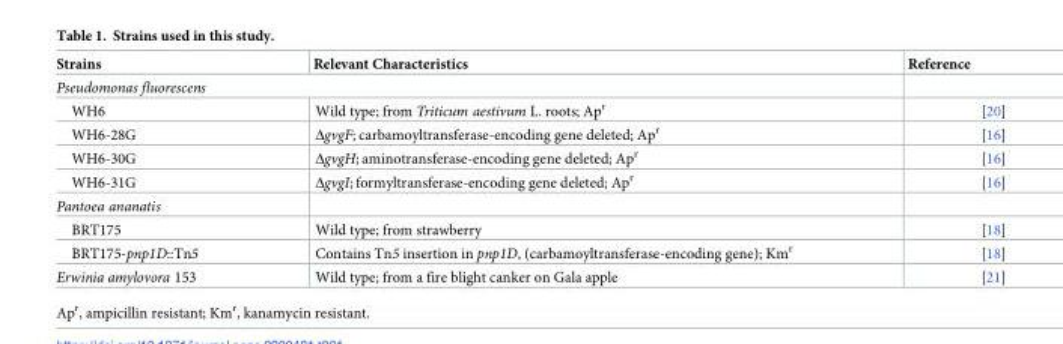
<table><thead><tr><td>Strains</td><td>Relevant Characteristics</td><td>Reference</td></tr></thead><tbody><tr><td colspan="3">Pseudomonas fluorescens</td></tr><tr><td>WH6</td><td>Wild type; from Triticum aestivum L. roots; Ap<sup>r</sup></td><td>[20]</td></tr><tr><td>WH6-28G</td><td>ΔgvgF; carbamoyltransferase-encoding gene deleted; Ap<sup>r</sup></td><td>[16]</td></tr><tr><td>WH6-30G</td><td>ΔgvgH; aminotransferase-encoding gene deleted; Ap<sup>r</sup></td><td>[16]</td></tr><tr><td>WH6-31G</td><td>ΔgvgI; formyltransferase-encoding gene deleted; Ap<sup>r</sup></td><td>[16]</td></tr><tr><td colspan="3">Pantoea ananatis</td></tr><tr><td>BRT175</td><td>Wild type; from strawberry</td><td>[18]</td></tr><tr><td>BRT175-pnp1D::Tn5</td><td>Contains Tn5 insertion in pnp1D, (carbamoyltransferase-encoding gene); Km<sup>r</sup></td><td>[18]</td></tr><tr><td>Erwinia amylovora 153</td><td>Wild type; from a fire blight canker on Gala apple</td><td>[21]</td></tr></tbody></table>